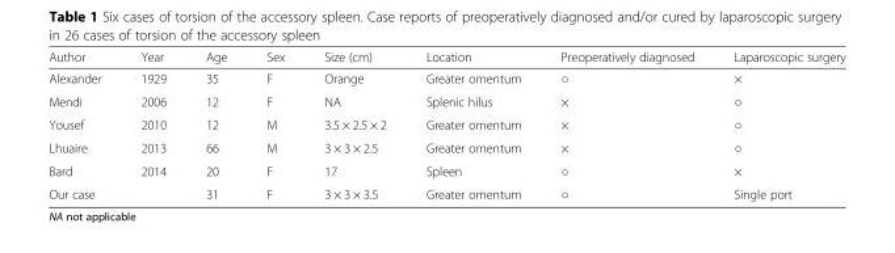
<table><thead><tr><td>Author</td><td>Year</td><td>Age</td><td>Sex</td><td>Size (cm)</td><td>Location</td><td>Preoperatively diagnosed</td><td>Laparoscopic surgery</td></tr></thead><tbody><tr><td>Alexander</td><td>1929</td><td>35</td><td>F</td><td>Orange</td><td>Greater omentum</td><td>○</td><td>×</td></tr><tr><td>Mendi</td><td>2006</td><td>12</td><td>F</td><td>NA</td><td>Splenic hilus</td><td>×</td><td>○</td></tr><tr><td>Yousef</td><td>2010</td><td>12</td><td>M</td><td>3.5 × 2.5 × 2</td><td>Greater omentum</td><td>×</td><td>○</td></tr><tr><td>Lhuaire</td><td>2013</td><td>66</td><td>M</td><td>3 × 3 × 2.5</td><td>Greater omentum</td><td>×</td><td>○</td></tr><tr><td>Bard</td><td>2014</td><td>20</td><td>F</td><td>17</td><td>Spleen</td><td>○</td><td>×</td></tr><tr><td>Our case</td><td></td><td>31</td><td>F</td><td>3 × 3 × 3.5</td><td>Greater omentum</td><td>○</td><td>Single port</td></tr></tbody></table>